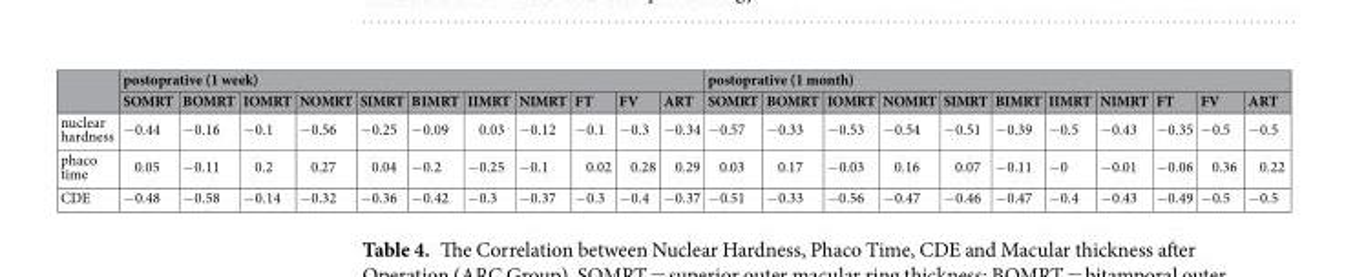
<table><thead><tr><td rowspan="2"></td><td colspan="11">postoprative (1 week)</td><td colspan="11">postoprative (1 month)</td></tr><tr><td>SOMRT</td><td>BOMRT</td><td>IOMRT</td><td>NOMRT</td><td>SIMRT</td><td>BIMRT</td><td>IIMRT</td><td>NIMRT</td><td>FT</td><td>FV</td><td>ART</td><td>SOMRT</td><td>BOMRT</td><td>IOMRT</td><td>NOMRT</td><td>SIMRT</td><td>BIMRT</td><td>IIMRT</td><td>NIMRT</td><td>FT</td><td>FV</td><td>ART</td></tr></thead><tbody><tr><td>nuclear hardness</td><td>−0.44</td><td>−0.16</td><td>−0.1</td><td>−0.56</td><td>−0.25</td><td>−0.09</td><td>0.03</td><td>−0.12</td><td>−0.1</td><td>−0.3</td><td>−0.34</td><td>−0.57</td><td>−0.33</td><td>−0.53</td><td>−0.54</td><td>−0.51</td><td>−0.39</td><td>−0.5</td><td>−0.43</td><td>−0.35</td><td>−0.5</td><td>−0.5</td></tr><tr><td>phaco time</td><td>0.05</td><td>−0.11</td><td>0.2</td><td>0.27</td><td>0.04</td><td>−0.2</td><td>−0.25</td><td>−0.1</td><td>0.02</td><td>0.28</td><td>0.29</td><td>0.03</td><td>0.17</td><td>−0.03</td><td>0.16</td><td>0.07</td><td>−0.11</td><td>−0</td><td>−0.01</td><td>−0.06</td><td>0.36</td><td>0.22</td></tr><tr><td>CDE</td><td>−0.48</td><td>−0.58</td><td>−0.14</td><td>−0.32</td><td>−0.36</td><td>−0.42</td><td>−0.3</td><td>−0.37</td><td>−0.3</td><td>−0.4</td><td>−0.37</td><td>−0.51</td><td>−0.33</td><td>−0.56</td><td>−0.47</td><td>−0.46</td><td>−0.47</td><td>−0.4</td><td>−0.43</td><td>−0.49</td><td>−0.5</td><td>−0.5</td></tr></tbody></table>